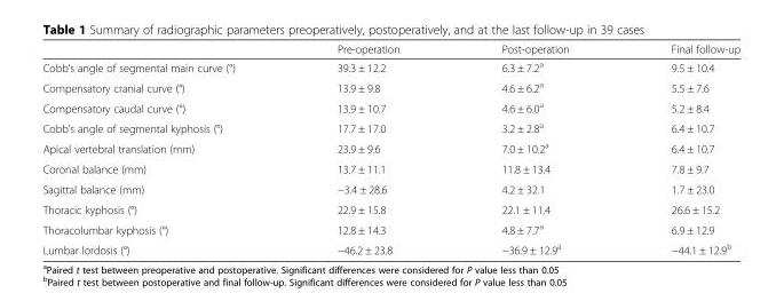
<table><thead><tr><td></td><td>Pre-operation</td><td>Post-operation</td><td>Final follow-up</td></tr></thead><tbody><tr><td>Cobb’s angle of segmental main curve (°)</td><td>39.3 ± 12.2</td><td>6.3 ± 7.2<sup>a</sup></td><td>9.5 ± 10.4</td></tr><tr><td>Compensatory cranial curve (°)</td><td>13.9 ± 9.8</td><td>4.6 ± 6.2<sup>a</sup></td><td>5.5 ± 7.6</td></tr><tr><td>Compensatory caudal curve (°)</td><td>13.9 ± 10.7</td><td>4.6 ± 6.0<sup>a</sup></td><td>5.2 ± 8.4</td></tr><tr><td>Cobb’s angle of segmental kyphosis (°)</td><td>17.7 ± 17.0</td><td>3.2 ± 2.8<sup>a</sup></td><td>6.4 ± 10.7</td></tr><tr><td>Apical vertebral translation (mm)</td><td>23.9 ± 9.6</td><td>7.0 ± 10.2<sup>a</sup></td><td>6.4 ± 10.7</td></tr><tr><td>Coronal balance (mm)</td><td>13.7 ± 11.1</td><td>11.8 ± 13.4</td><td>7.8 ± 9.7</td></tr><tr><td>Sagittal balance (mm)</td><td>−3.4 ± 28.6</td><td>4.2 ± 32.1</td><td>1.7 ± 23.0</td></tr><tr><td>Thoracic kyphosis (°)</td><td>22.9 ± 15.8</td><td>22.1 ± 11.4</td><td>26.6 ± 15.2</td></tr><tr><td>Thoracolumbar kyphosis (°)</td><td>12.8 ± 14.3</td><td>4.8 ± 7.7<sup>a</sup></td><td>6.9 ± 12.9</td></tr><tr><td>Lumbar lordosis (°)</td><td>−46.2 ± 23.8</td><td>−36.9 ± 12.9<sup>a</sup></td><td>−44.1 ± 12.9<sup>b</sup></td></tr></tbody></table>